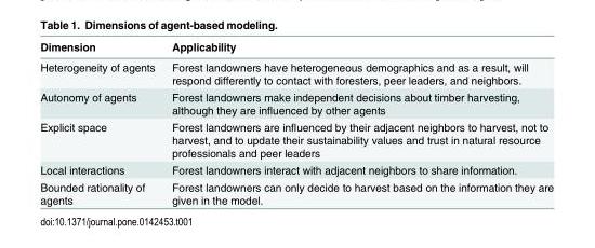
<table><thead><tr><td>Dimension</td><td>Applicability</td></tr></thead><tbody><tr><td>Heterogeneity of agents</td><td>Forest landowners have heterogeneous demographics and as a result, will respond differently to contact with foresters, peer leaders, and neighbors.</td></tr><tr><td>Autonomy of agents</td><td>Forest landowners make independent decisions about timber harvesting, although they are influenced by other agents</td></tr><tr><td>Explicit space</td><td>Forest landowners are influenced by their adjacent neighbors to harvest, not to harvest, and to update their sustainability values and trust in natural resource professionals and peer leaders</td></tr><tr><td>Local interactions</td><td>Forest landowners interact with adjacent neighbors to share information.</td></tr><tr><td>Bounded rationality of agents</td><td>Forest landowners can only decide to harvest based on the information they are given in the model.</td></tr></tbody></table>